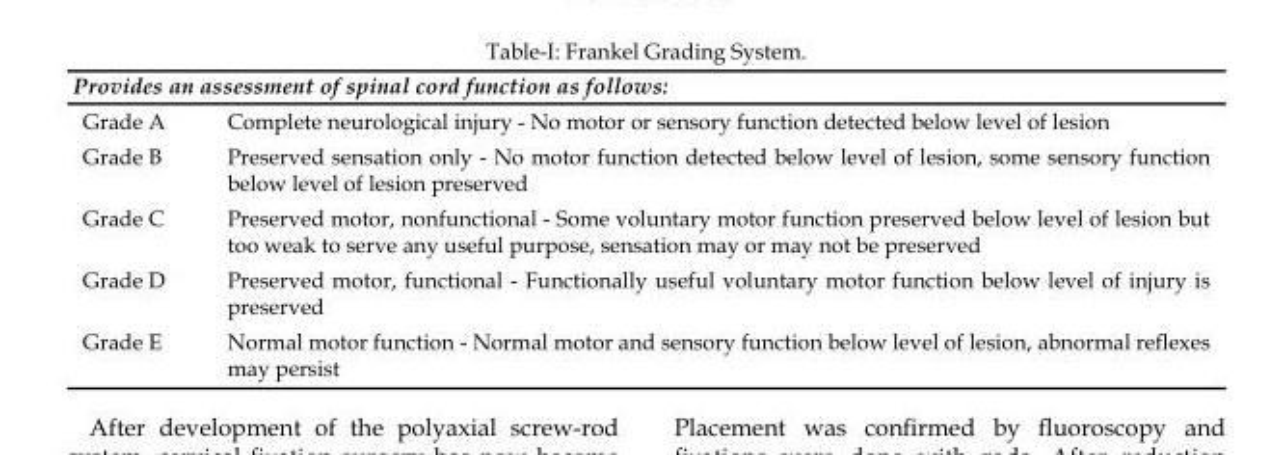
<table><thead><tr><td colspan="2">Provides an assessment of spinal cord function as follows:</td></tr><tr><td>Grade A</td><td>Complete neurological injury - No motor or sensory function detected below level of lesion</td></tr></thead><tbody><tr><td>Grade B</td><td>Preserved sensation only - No motor function detected below level of lesion, some sensory function below level of lesion preserved</td></tr><tr><td>Grade C</td><td>Preserved motor, nonfunctional - Some voluntary motor function preserved below level of lesion but too weak to serve any useful purpose, sensation may or may not be preserved</td></tr><tr><td>Grade D</td><td>Preserved motor, functional - Functionally useful voluntary motor function below level of injury is preserved</td></tr><tr><td>Grade E</td><td>Normal motor function - Normal motor and sensory function below level of lesion, abnormal reflexes may persist</td></tr></tbody></table>